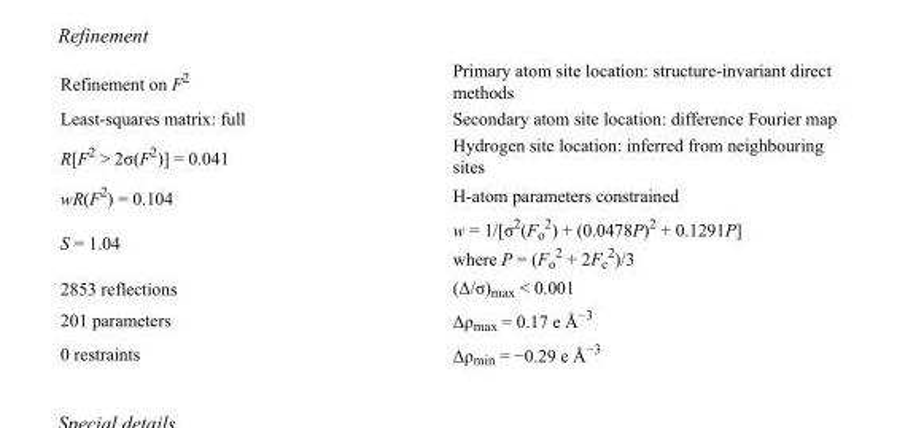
<table><tbody><tr><td>Refinement on F<sup>2</sup></td><td>Primary atom site location: structure-invariant direct methods</td></tr><tr><td>Least-squares matrix: full</td><td>Secondary atom site location: difference Fourier map</td></tr><tr><td>R[F<sup>2</sup> &gt; 2σ(F<sup>2</sup>)] = 0.041</td><td>Hydrogen site location: inferred from neighbouring sites</td></tr><tr><td>wR(F<sup>2</sup>) = 0.104</td><td>H-atom parameters constrained</td></tr><tr><td>S = 1.04</td><td>w = 1/[σ<sup>2</sup>(F<sub>o</sub> <sup>2</sup>) + (0.0478P)<sup>2</sup> + 0.1291P] where P = (F<sub>o</sub> <sup>2</sup> + 2F<sub>c</sub> <sup>2</sup>)/3</td></tr><tr><td>2853 reflections</td><td>(Δ/σ)<sub>max</sub> &lt; 0.001</td></tr><tr><td>201 parameters</td><td>Δρ<sub>max</sub> = 0.17 e Å<sup>−3</sup></td></tr><tr><td>0 restraints</td><td>Δρ<sub>min</sub> = −0.29 e Å<sup>−3</sup></td></tr></tbody></table>